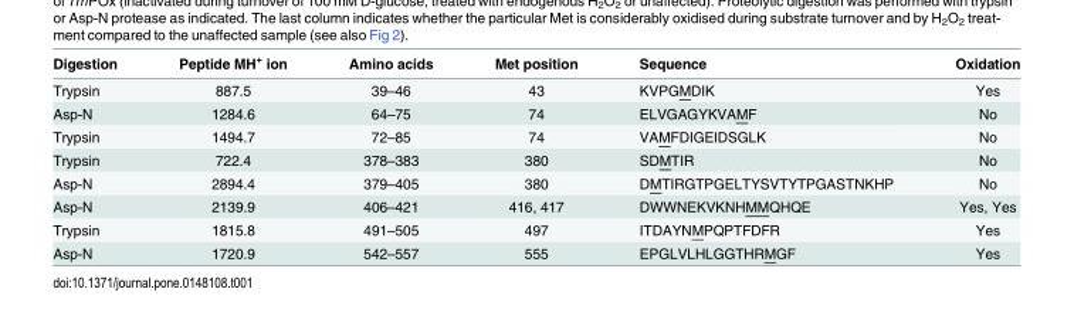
<table><thead><tr><td>Digestion</td><td>Peptide MH<sup>+</sup> ion</td><td>Amino acids</td><td>Met position</td><td>Sequence</td><td>Oxidation</td></tr></thead><tbody><tr><td>Trypsin</td><td>887.5</td><td>39–46</td><td>43</td><td>KVPGMDIK</td><td>Yes</td></tr><tr><td>Asp-N</td><td>1284.6</td><td>64–75</td><td>74</td><td>ELVGAGYKVAMF</td><td>No</td></tr><tr><td>Trypsin</td><td>1494.7</td><td>72–85</td><td>74</td><td>VAMFDIGEIDSGLK</td><td>No</td></tr><tr><td>Trypsin</td><td>722.4</td><td>378–383</td><td>380</td><td>SDMTIR</td><td>No</td></tr><tr><td>Asp-N</td><td>2894.4</td><td>379–405</td><td>380</td><td>DMTIRGTPGELTYSVTYTPGASTNKHP</td><td>No</td></tr><tr><td>Asp-N</td><td>2139.9</td><td>406–421</td><td>416, 417</td><td>DWWNEKVKNHMMQHQE</td><td>Yes, Yes</td></tr><tr><td>Trypsin</td><td>1815.8</td><td>491–505</td><td>497</td><td>ITDAYNMPQPTFDFR</td><td>Yes</td></tr><tr><td>Asp-N</td><td>1720.9</td><td>542–557</td><td>555</td><td>EPGLVLHLGGTHRMGF</td><td>Yes</td></tr></tbody></table>